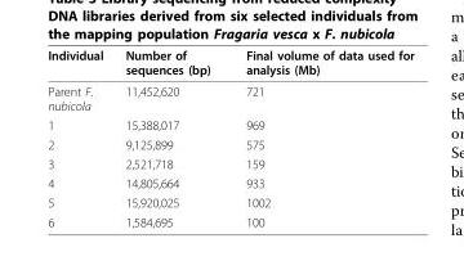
<table><thead><tr><td>Individual</td><td>Number of sequences (bp)</td><td>Final volume of data used for analysis (Mb)</td></tr></thead><tbody><tr><td>Parent F. nubicola</td><td>11,452,620</td><td>721</td></tr><tr><td>1</td><td>15,388,017</td><td>969</td></tr><tr><td>2</td><td>9,125,899</td><td>575</td></tr><tr><td>3</td><td>2,521,718</td><td>159</td></tr><tr><td>4</td><td>14,805,664</td><td>933</td></tr><tr><td>5</td><td>15,920,025</td><td>1002</td></tr><tr><td>6</td><td>1,584,695</td><td>100</td></tr></tbody></table>